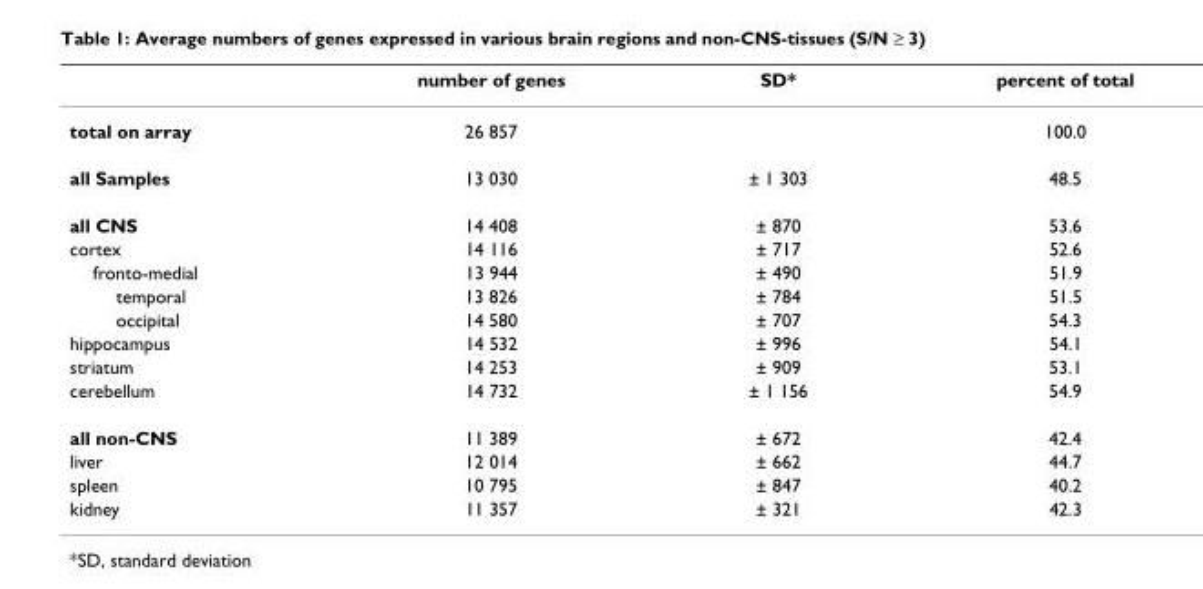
<table><thead><tr><td></td><td>number of genes</td><td>SD*</td><td>percent of total</td></tr></thead><tbody><tr><td>total on array</td><td>26 857</td><td></td><td>100.0</td></tr><tr><td>all Samples</td><td>13 030</td><td>± 1 303</td><td>48.5</td></tr><tr><td>all CNS</td><td>14 408</td><td>± 870</td><td>53.6</td></tr><tr><td>cortex</td><td>14 116</td><td>± 717</td><td>52.6</td></tr><tr><td>fronto-medial</td><td>13 944</td><td>± 490</td><td>51.9</td></tr><tr><td>temporal</td><td>13 826</td><td>± 784</td><td>51.5</td></tr><tr><td>occipital</td><td>14 580</td><td>± 707</td><td>54.3</td></tr><tr><td>hippocampus</td><td>14 532</td><td>± 996</td><td>54.1</td></tr><tr><td>striatum</td><td>14 253</td><td>± 909</td><td>53.1</td></tr><tr><td>cerebellum</td><td>14 732</td><td>± 1 156</td><td>54.9</td></tr><tr><td>all non-CNS</td><td>11 389</td><td>± 672</td><td>42.4</td></tr><tr><td>liver</td><td>12 014</td><td>± 662</td><td>44.7</td></tr><tr><td>spleen</td><td>10 795</td><td>± 847</td><td>40.2</td></tr><tr><td>kidney</td><td>11 357</td><td>± 321</td><td>42.3</td></tr></tbody></table>